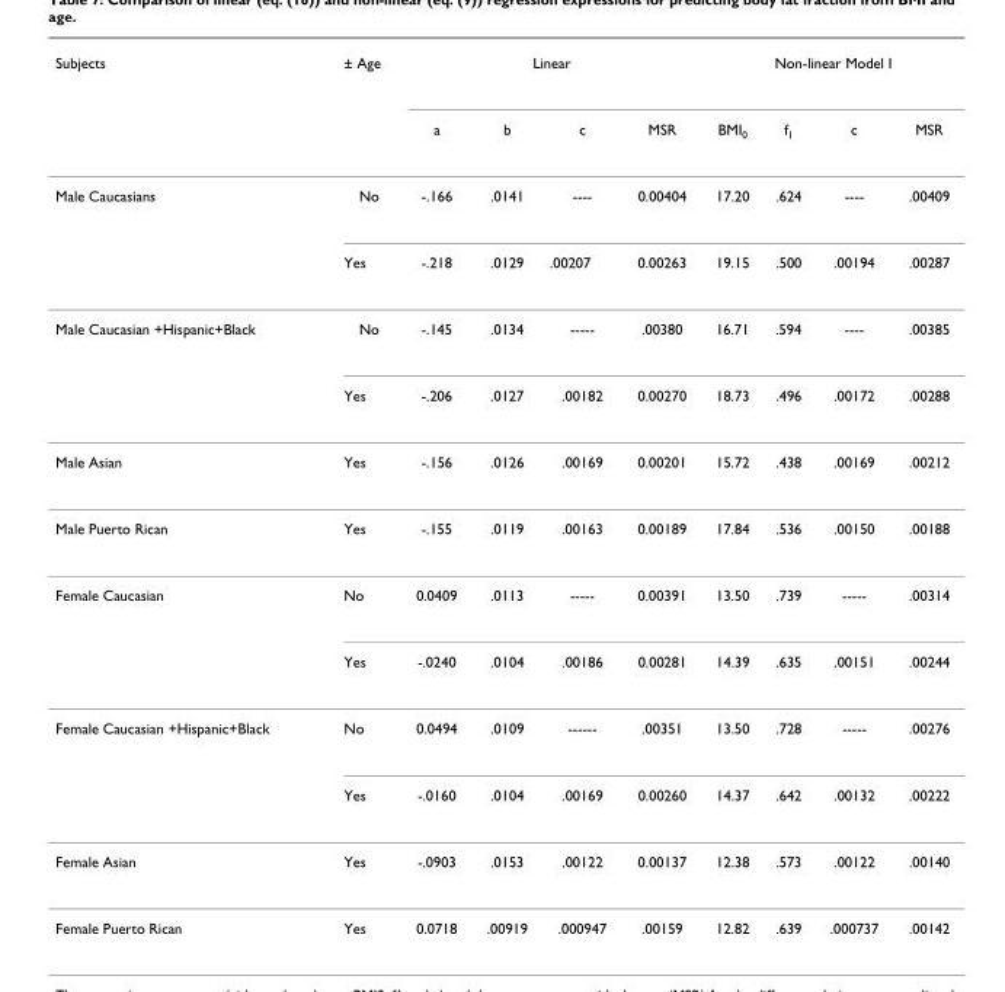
<table><thead><tr><td rowspan="2">Subjects</td><td rowspan="2">± Age</td><td colspan="4">Linear</td><td colspan="4">Non-linear Model I</td></tr><tr><td>a</td><td>b</td><td>c</td><td>MSR</td><td>BMI<sub>0</sub></td><td>f<sub>1</sub></td><td>c</td><td>MSR</td></tr></thead><tbody><tr><td rowspan="2">Male Caucasians</td><td>No</td><td>-.166</td><td>.0141</td><td>----</td><td>0.00404</td><td>17.20</td><td>.624</td><td>----</td><td>.00409</td></tr><tr><td>Yes</td><td>-.218</td><td>.0129</td><td>.00207</td><td>0.00263</td><td>19.15</td><td>.500</td><td>.00194</td><td>.00287</td></tr><tr><td rowspan="2">Male Caucasian +Hispanic+Black</td><td>No</td><td>-.145</td><td>.0134</td><td>-----</td><td>.00380</td><td>16.71</td><td>.594</td><td>----</td><td>.00385</td></tr><tr><td>Yes</td><td>-.206</td><td>.0127</td><td>.00182</td><td>0.00270</td><td>18.73</td><td>.496</td><td>.00172</td><td>.00288</td></tr><tr><td>Male Asian</td><td>Yes</td><td>-.156</td><td>.0126</td><td>.00169</td><td>0.00201</td><td>15.72</td><td>.438</td><td>.00169</td><td>.00212</td></tr><tr><td>Male Puerto Rican</td><td>Yes</td><td>-.155</td><td>.0119</td><td>.00163</td><td>0.00189</td><td>17.84</td><td>.536</td><td>.00150</td><td>.00188</td></tr><tr><td rowspan="2">Female Caucasian</td><td>No</td><td>0.0409</td><td>.0113</td><td>-----</td><td>0.00391</td><td>13.50</td><td>.739</td><td>-----</td><td>.00314</td></tr><tr><td>Yes</td><td>-.0240</td><td>.0104</td><td>.00186</td><td>0.00281</td><td>14.39</td><td>.635</td><td>.00151</td><td>.00244</td></tr><tr><td rowspan="2">Female Caucasian +Hispanic+Black</td><td>No</td><td>0.0494</td><td>.0109</td><td>------</td><td>.00351</td><td>13.50</td><td>.728</td><td>-----</td><td>.00276</td></tr><tr><td>Yes</td><td>-.0160</td><td>.0104</td><td>.00169</td><td>0.00260</td><td>14.37</td><td>.642</td><td>.00132</td><td>.00222</td></tr><tr><td>Female Asian</td><td>Yes</td><td>-.0903</td><td>.0153</td><td>.00122</td><td>0.00137</td><td>12.38</td><td>.573</td><td>.00122</td><td>.00140</td></tr><tr><td>Female Puerto Rican</td><td>Yes</td><td>0.0718</td><td>.00919</td><td>.000947</td><td>.00159</td><td>12.82</td><td>.639</td><td>.000737</td><td>.00142</td></tr></tbody></table>